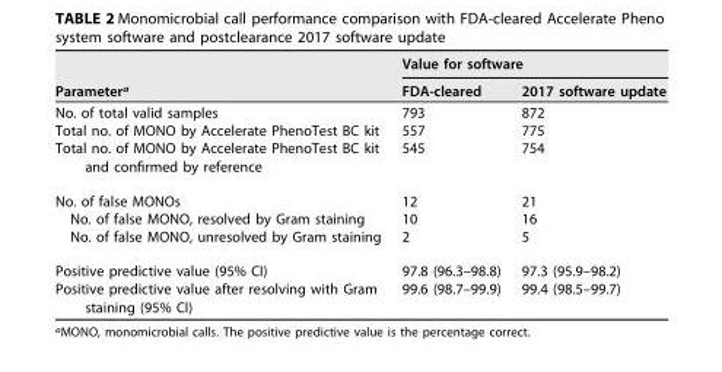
<table><thead><tr><td rowspan="2">Parameter<sup>a</sup></td><td colspan="2">Value for software</td></tr><tr><td>FDA-cleared</td><td>2017 software update</td></tr></thead><tbody><tr><td>No. of total valid samples</td><td>793</td><td>872</td></tr><tr><td>Total no. of MONO by Accelerate PhenoTest BC kit</td><td>557</td><td>775</td></tr><tr><td>Total no. of MONO by Accelerate PhenoTest BC kit and confirmed by reference</td><td>545</td><td>754</td></tr><tr><td>No. of false MONOs</td><td>12</td><td>21</td></tr><tr><td>No. of false MONO, resolved by Gram staining</td><td>10</td><td>16</td></tr><tr><td>No. of false MONO, unresolved by Gram staining</td><td>2</td><td>5</td></tr><tr><td>Positive predictive value (95% CI)</td><td>97.8 (96.3–98.8)</td><td>97.3 (95.9–98.2)</td></tr><tr><td>Positive predictive value after resolving with Gram staining (95% CI)</td><td>99.6 (98.7–99.9)</td><td>99.4 (98.5–99.7)</td></tr></tbody></table>